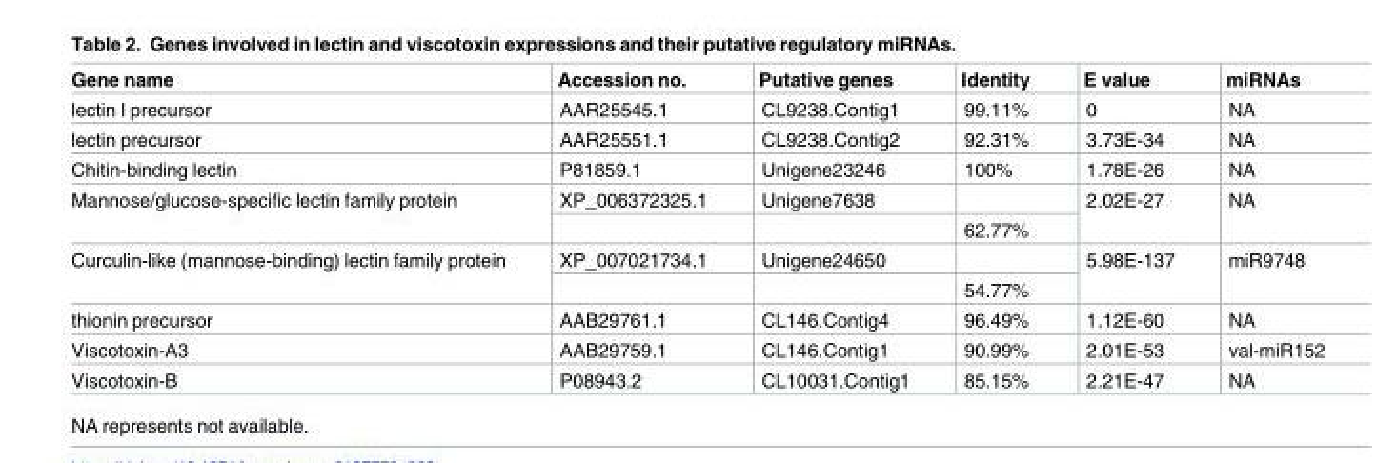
<table><thead><tr><td>Gene name</td><td>Accession no.</td><td>Putative genes</td><td>Identity</td><td>E value</td><td>miRNAs</td></tr></thead><tbody><tr><td>lectin I precursor</td><td>AAR25545.1</td><td>CL9238.Contig1</td><td>99.11%</td><td>0</td><td>NA</td></tr><tr><td>lectin precursor</td><td>AAR25551.1</td><td>CL9238.Contig2</td><td>92.31%</td><td>3.73E-34</td><td>NA</td></tr><tr><td>Chitin-binding lectin</td><td>P81859.1</td><td>Unigene23246</td><td>100%</td><td>1.78E-26</td><td>NA</td></tr><tr><td rowspan="2">Mannose/glucose-specific lectin family protein</td><td>XP_006372325.1</td><td>Unigene7638</td><td></td><td rowspan="2">2.02E-27</td><td rowspan="2">NA</td></tr><tr><td></td><td></td><td>62.77%</td></tr><tr><td rowspan="2">Curculin-like (mannose-binding) lectin family protein</td><td>XP_007021734.1</td><td>Unigene24650</td><td></td><td rowspan="2">5.98E-137</td><td rowspan="2">miR9748</td></tr><tr><td></td><td></td><td>54.77%</td></tr><tr><td>thionin precursor</td><td>AAB29761.1</td><td>CL146.Contig4</td><td>96.49%</td><td>1.12E-60</td><td>NA</td></tr><tr><td>Viscotoxin-A3</td><td>AAB29759.1</td><td>CL146.Contig1</td><td>90.99%</td><td>2.01E-53</td><td>val-miR152</td></tr><tr><td>Viscotoxin-B</td><td>P08943.2</td><td>CL10031.Contig1</td><td>85.15%</td><td>2.21E-47</td><td>NA</td></tr></tbody></table>